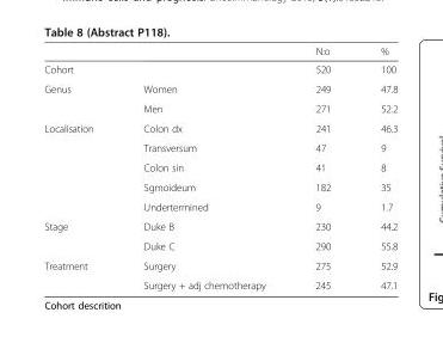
<table><thead><tr><td></td><td></td><td>N:o</td><td>%</td></tr></thead><tbody><tr><td>Cohort</td><td></td><td>520</td><td>100</td></tr><tr><td rowspan="2">Genus</td><td>Women</td><td>249</td><td>47.8</td></tr><tr><td>Men</td><td>271</td><td>52.2</td></tr><tr><td rowspan="5">Localisation</td><td>Colon dx</td><td>241</td><td>46.3</td></tr><tr><td>Transversum</td><td>47</td><td>9</td></tr><tr><td>Colon sin</td><td>41</td><td>8</td></tr><tr><td>Sgmoideum</td><td>182</td><td>35</td></tr><tr><td>Undertermined</td><td>9</td><td>1.7</td></tr><tr><td rowspan="2">Stage</td><td>Duke B</td><td>230</td><td>44.2</td></tr><tr><td>Duke C</td><td>290</td><td>55.8</td></tr><tr><td rowspan="2">Treatment</td><td>Surgery</td><td>275</td><td>52.9</td></tr><tr><td>Surgery + adj chemotherapy</td><td>245</td><td>47.1</td></tr></tbody></table>